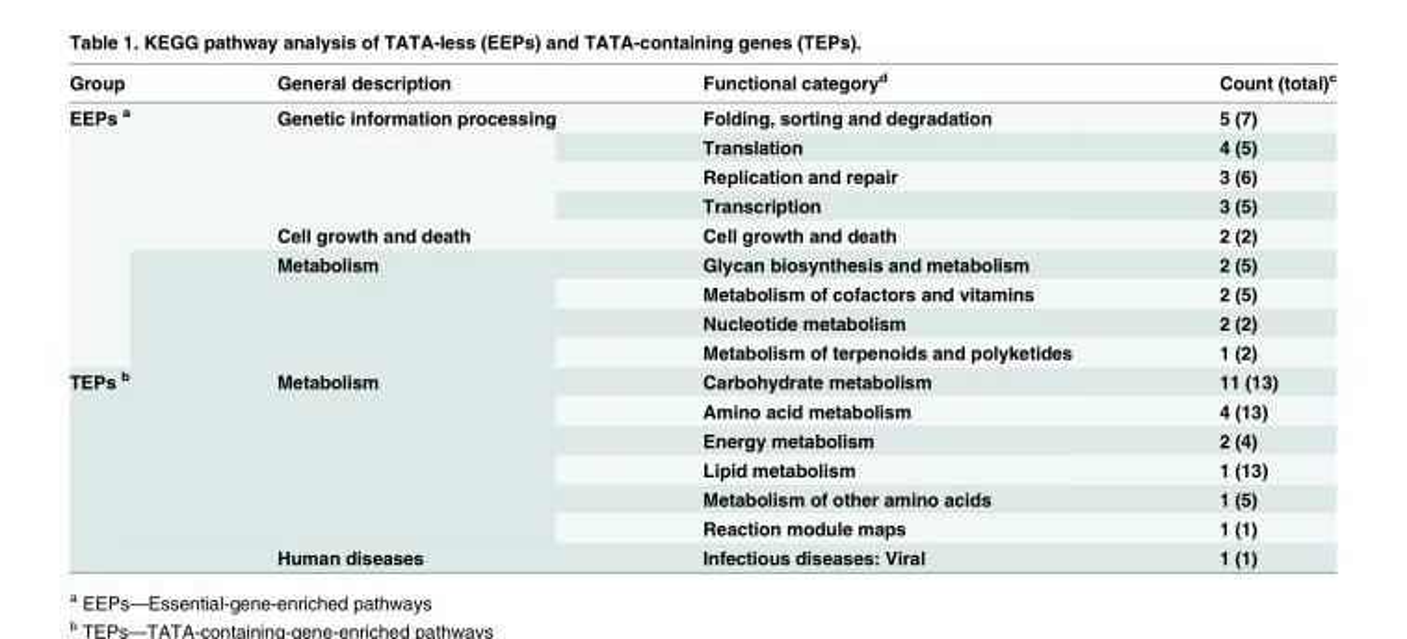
<table><thead><tr><td>Group</td><td>General description</td><td>Functional category<sup>d</sup></td><td>Count (total)<sup>c</sup></td></tr></thead><tbody><tr><td rowspan="9">EEPs <sup>a</sup></td><td rowspan="4">Genetic information processing</td><td>Folding, sorting and degradation</td><td>5 (7)</td></tr><tr><td>Translation</td><td>4 (5)</td></tr><tr><td>Replication and repair</td><td>3 (6)</td></tr><tr><td>Transcription</td><td>3 (5)</td></tr><tr><td>Cell growth and death</td><td>Cell growth and death</td><td>2 (2)</td></tr><tr><td rowspan="4">Metabolism</td><td>Glycan biosynthesis and metabolism</td><td>2 (5)</td></tr><tr><td>Metabolism of cofactors and vitamins</td><td>2 (5)</td></tr><tr><td>Nucleotide metabolism</td><td>2 (2)</td></tr><tr><td>Metabolism of terpenoids and polyketides</td><td>1 (2)</td></tr><tr><td rowspan="7">TEPs <sup>b</sup></td><td rowspan="6">Metabolism</td><td>Carbohydrate metabolism</td><td>11 (13)</td></tr><tr><td>Amino acid metabolism</td><td>4 (13)</td></tr><tr><td>Energy metabolism</td><td>2 (4)</td></tr><tr><td>Lipid metabolism</td><td>1 (13)</td></tr><tr><td>Metabolism of other amino acids</td><td>1 (5)</td></tr><tr><td>Reaction module maps</td><td>1 (1)</td></tr><tr><td>Human diseases</td><td>Infectious diseases: Viral</td><td>1 (1)</td></tr></tbody></table>